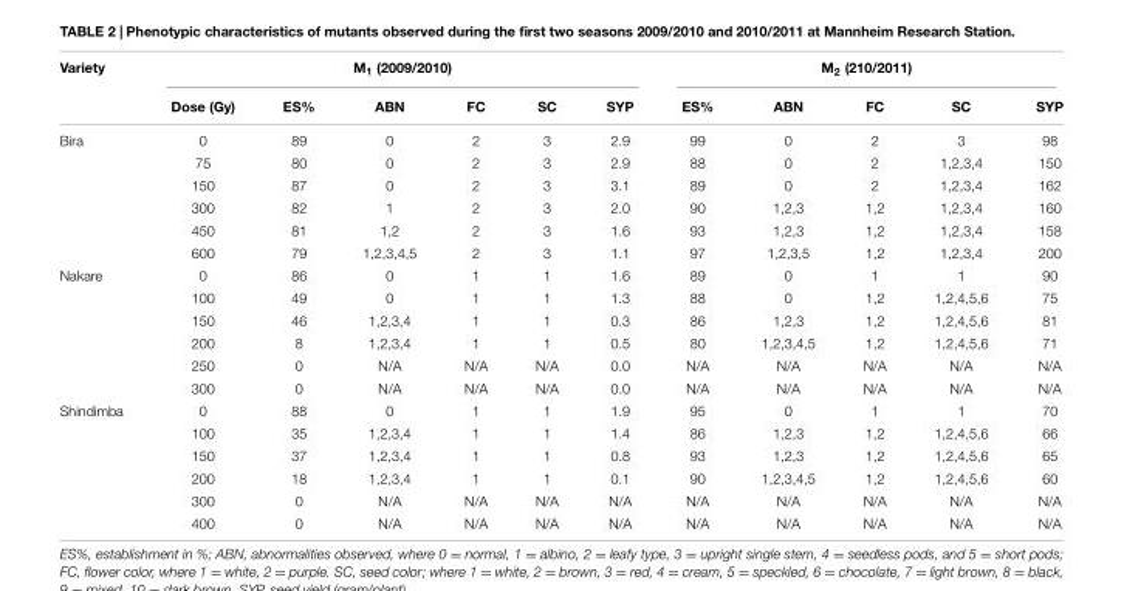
<table><thead><tr><td rowspan="2">Variety</td><td colspan="6">M<sub>1</sub> (2009/2010)</td><td colspan="5">M<sub>2</sub> (210/2011)</td></tr><tr><td>Dose (Gy)</td><td>ES%</td><td>ABN</td><td>FC</td><td>SC</td><td>SYP</td><td>ES%</td><td>ABN</td><td>FC</td><td>SC</td><td>SYP</td></tr></thead><tbody><tr><td rowspan="6">Bira</td><td>0</td><td>89</td><td>0</td><td>2</td><td>3</td><td>2.9</td><td>99</td><td>0</td><td>2</td><td>3</td><td>98</td></tr><tr><td>75</td><td>80</td><td>0</td><td>2</td><td>3</td><td>2.9</td><td>88</td><td>0</td><td>2</td><td>1,2,3,4</td><td>150</td></tr><tr><td>150</td><td>87</td><td>0</td><td>2</td><td>3</td><td>3.1</td><td>89</td><td>0</td><td>2</td><td>1,2,3,4</td><td>162</td></tr><tr><td>300</td><td>82</td><td>1</td><td>2</td><td>3</td><td>2.0</td><td>90</td><td>1,2,3</td><td>1,2</td><td>1,2,3,4</td><td>160</td></tr><tr><td>450</td><td>81</td><td>1,2</td><td>2</td><td>3</td><td>1.6</td><td>93</td><td>1,2,3</td><td>1,2</td><td>1,2,3,4</td><td>158</td></tr><tr><td>600</td><td>79</td><td>1,2,3,4,5</td><td>2</td><td>3</td><td>1.1</td><td>97</td><td>1,2,3,5</td><td>1,2</td><td>1,2,3,4</td><td>200</td></tr><tr><td rowspan="6">Nakare</td><td>0</td><td>86</td><td>0</td><td>1</td><td>1</td><td>1.6</td><td>89</td><td>0</td><td>1</td><td>1</td><td>90</td></tr><tr><td>100</td><td>49</td><td>0</td><td>1</td><td>1</td><td>1.3</td><td>88</td><td>0</td><td>1,2</td><td>1,2,4,5,6</td><td>75</td></tr><tr><td>150</td><td>46</td><td>1,2,3,4</td><td>1</td><td>1</td><td>0.3</td><td>86</td><td>1,2,3</td><td>1,2</td><td>1,2,4,5,6</td><td>81</td></tr><tr><td>200</td><td>8</td><td>1,2,3,4</td><td>1</td><td>1</td><td>0.5</td><td>80</td><td>1,2,3,4,5</td><td>1,2</td><td>1,2,4,5,6</td><td>71</td></tr><tr><td>250</td><td>0</td><td>N/A</td><td>N/A</td><td>N/A</td><td>0.0</td><td>N/A</td><td>N/A</td><td>N/A</td><td>N/A</td><td>N/A</td></tr><tr><td>300</td><td>0</td><td>N/A</td><td>N/A</td><td>N/A</td><td>0.0</td><td>N/A</td><td>N/A</td><td>N/A</td><td>N/A</td><td>N/A</td></tr><tr><td rowspan="6">Shindimba</td><td>0</td><td>88</td><td>0</td><td>1</td><td>1</td><td>1.9</td><td>95</td><td>0</td><td>1</td><td>1</td><td>70</td></tr><tr><td>100</td><td>35</td><td>1,2,3,4</td><td>1</td><td>1</td><td>1.4</td><td>86</td><td>1,2,3</td><td>1,2</td><td>1,2,4,5,6</td><td>66</td></tr><tr><td>150</td><td>37</td><td>1,2,3,4</td><td>1</td><td>1</td><td>0.8</td><td>93</td><td>1,2,3</td><td>1,2</td><td>1,2,4,5,6</td><td>65</td></tr><tr><td>200</td><td>18</td><td>1,2,3,4</td><td>1</td><td>1</td><td>0.1</td><td>90</td><td>1,2,3,4,5</td><td>1,2</td><td>1,2,4,5,6</td><td>60</td></tr><tr><td>300</td><td>0</td><td>N/A</td><td>N/A</td><td>N/A</td><td>N/A</td><td>N/A</td><td>N/A</td><td>N/A</td><td>N/A</td><td>N/A</td></tr><tr><td>400</td><td>0</td><td>N/A</td><td>N/A</td><td>N/A</td><td>N/A</td><td>N/A</td><td>N/A</td><td>N/A</td><td>N/A</td><td>N/A</td></tr></tbody></table>